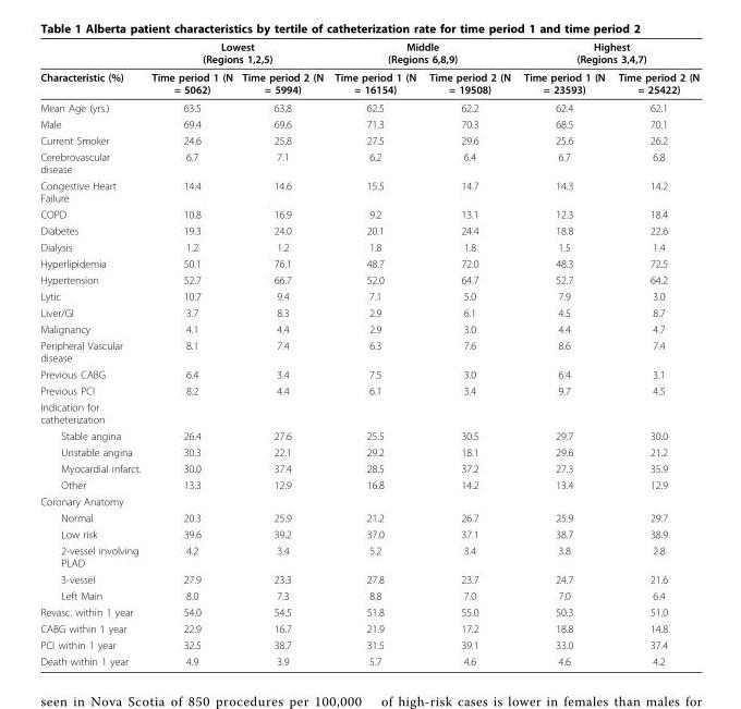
<table><thead><tr><td rowspan="2">Characteristic (%)</td><td colspan="2">Lowest (Regions 1,2,5)</td><td colspan="2">Middle (Regions 6,8,9)</td><td colspan="2">Highest (Regions 3,4,7)</td></tr><tr><td>Time period 1 (N = 5062)</td><td>Time period 2 (N = 5994)</td><td>Time period 1 (N = 16154)</td><td>Time period 2 (N = 19508)</td><td>Time period 1 (N = 23593)</td><td>Time period 2 (N = 25422)</td></tr></thead><tbody><tr><td>Mean Age (yrs.)</td><td>63.5</td><td>63.8</td><td>62.5</td><td>62.2</td><td>62.4</td><td>62.1</td></tr><tr><td>Male</td><td>69.4</td><td>69.6</td><td>71.3</td><td>70.3</td><td>68.5</td><td>70.1</td></tr><tr><td>Current Smoker</td><td>24.6</td><td>25.8</td><td>27.5</td><td>29.6</td><td>25.6</td><td>26.2</td></tr><tr><td>Cerebrovascular disease</td><td>6.7</td><td>7.1</td><td>6.2</td><td>6.4</td><td>6.7</td><td>6.8</td></tr><tr><td>Congestive Heart Failure</td><td>14.4</td><td>14.6</td><td>15.5</td><td>14.7</td><td>14.3</td><td>14.2</td></tr><tr><td>COPD</td><td>10.8</td><td>16.9</td><td>9.2</td><td>13.1</td><td>12.3</td><td>18.4</td></tr><tr><td>Diabetes</td><td>19.3</td><td>24.0</td><td>20.1</td><td>24.4</td><td>18.8</td><td>22.6</td></tr><tr><td>Dialysis</td><td>1.2</td><td>1.2</td><td>1.8</td><td>1.8</td><td>1.5</td><td>1.4</td></tr><tr><td>Hyperlipidemia</td><td>50.1</td><td>76.1</td><td>48.7</td><td>72.0</td><td>48.3</td><td>72.5</td></tr><tr><td>Hypertension</td><td>52.7</td><td>66.7</td><td>52.0</td><td>64.7</td><td>52.7</td><td>64.2</td></tr><tr><td>Lytic</td><td>10.7</td><td>9.4</td><td>7.1</td><td>5.0</td><td>7.9</td><td>3.0</td></tr><tr><td>Liver/GI</td><td>3.7</td><td>8.3</td><td>2.9</td><td>6.1</td><td>4.5</td><td>8.7</td></tr><tr><td>Malignancy</td><td>4.1</td><td>4.4</td><td>2.9</td><td>3.0</td><td>4.4</td><td>4.7</td></tr><tr><td>Peripheral Vascular disease</td><td>8.1</td><td>7.4</td><td>6.3</td><td>7.6</td><td>8.6</td><td>7.4</td></tr><tr><td>Previous CABG</td><td>6.4</td><td>3.4</td><td>7.5</td><td>3.0</td><td>6.4</td><td>3.1</td></tr><tr><td>Previous PCI</td><td>8.2</td><td>4.4</td><td>6.1</td><td>3.4</td><td>9.7</td><td>4.5</td></tr><tr><td colspan="7">Indication for catheterization</td></tr><tr><td>Stable angina</td><td>26.4</td><td>27.6</td><td>25.5</td><td>30.5</td><td>29.7</td><td>30.0</td></tr><tr><td>Unstable angina</td><td>30.3</td><td>22.1</td><td>29.2</td><td>18.1</td><td>29.6</td><td>21.2</td></tr><tr><td>Myocardial infarct.</td><td>30.0</td><td>37.4</td><td>28.5</td><td>37.2</td><td>27.3</td><td>35.9</td></tr><tr><td>Other</td><td>13.3</td><td>12.9</td><td>16.8</td><td>14.2</td><td>13.4</td><td>12.9</td></tr><tr><td colspan="7">Coronary Anatomy</td></tr><tr><td>Normal</td><td>20.3</td><td>25.9</td><td>21.2</td><td>26.7</td><td>25.9</td><td>29.7</td></tr><tr><td>Low risk</td><td>39.6</td><td>39.2</td><td>37.0</td><td>37.1</td><td>38.7</td><td>38.9</td></tr><tr><td>2-vessel involving PLAD</td><td>4.2</td><td>3.4</td><td>5.2</td><td>3.4</td><td>3.8</td><td>2.8</td></tr><tr><td>3-vessel</td><td>27.9</td><td>23.3</td><td>27.8</td><td>23.7</td><td>24.7</td><td>21.6</td></tr><tr><td>Left Main</td><td>8.0</td><td>7.3</td><td>8.8</td><td>7.0</td><td>7.0</td><td>6.4</td></tr><tr><td>Revasc. within 1 year</td><td>54.0</td><td>54.5</td><td>51.8</td><td>55.0</td><td>50.3</td><td>51.0</td></tr><tr><td>CABG within 1 year</td><td>22.9</td><td>16.7</td><td>21.9</td><td>17.2</td><td>18.8</td><td>14.8</td></tr><tr><td>PCI within 1 year</td><td>32.5</td><td>38.7</td><td>31.5</td><td>39.1</td><td>33.0</td><td>37.4</td></tr><tr><td>Death within 1 year</td><td>4.9</td><td>3.9</td><td>5.7</td><td>4.6</td><td>4.6</td><td>4.2</td></tr></tbody></table>